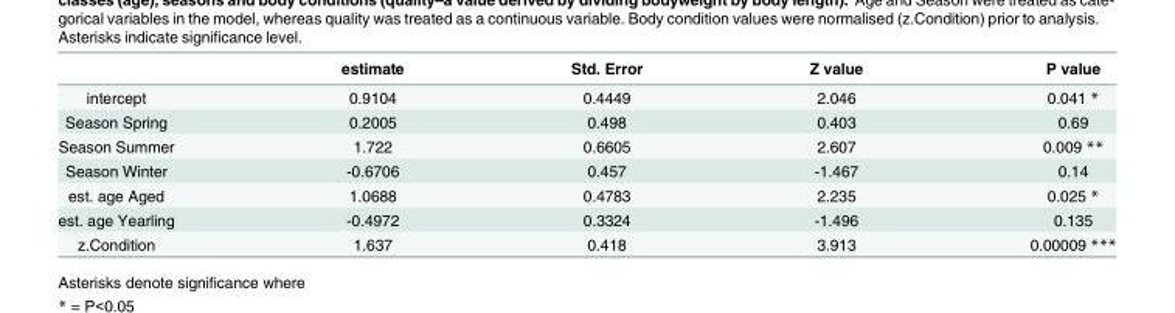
<table><thead><tr><td></td><td>estimate</td><td>Std. Error</td><td>Z value</td><td>P value</td></tr></thead><tbody><tr><td>intercept</td><td>0.9104</td><td>0.4449</td><td>2.046</td><td>0.041 *</td></tr><tr><td>Season Spring</td><td>0.2005</td><td>0.498</td><td>0.403</td><td>0.69</td></tr><tr><td>Season Summer</td><td>1.722</td><td>0.6605</td><td>2.607</td><td>0.009 **</td></tr><tr><td>Season Winter</td><td>-0.6706</td><td>0.457</td><td>-1.467</td><td>0.14</td></tr><tr><td>est. age Aged</td><td>1.0688</td><td>0.4783</td><td>2.235</td><td>0.025 *</td></tr><tr><td>est. age Yearling</td><td>-0.4972</td><td>0.3324</td><td>-1.496</td><td>0.135</td></tr><tr><td>z.Condition</td><td>1.637</td><td>0.418</td><td>3.913</td><td>0.00009 ***</td></tr></tbody></table>